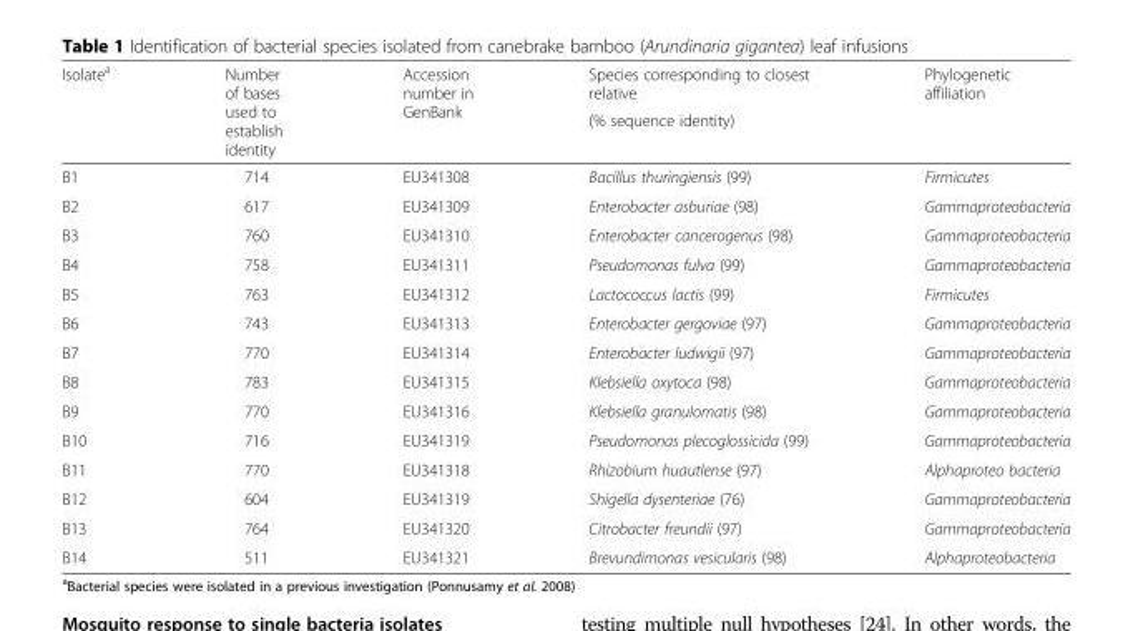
<table><thead><tr><td rowspan="2">Isolate<sup>a</sup></td><td rowspan="2">Number of bases used to establish identity</td><td rowspan="2">Accession number in GenBank</td><td rowspan="2">Species corresponding to closest relative (% sequence identity)</td><td rowspan="2">Phylogenetic affiliation</td></tr><tr></tr></thead><tbody><tr><td>B1</td><td>714</td><td>EU341308</td><td>Bacillus thuringiensis (99)</td><td>Firmicutes</td></tr><tr><td>B2</td><td>617</td><td>EU341309</td><td>Enterobacter asburiae (98)</td><td>Gammaproteobacteria</td></tr><tr><td>B3</td><td>760</td><td>EU341310</td><td>Enterobacter cancerogenus (98)</td><td>Gammaproteobacteria</td></tr><tr><td>B4</td><td>758</td><td>EU341311</td><td>Pseudomonas fulva (99)</td><td>Gammaproteobacteria</td></tr><tr><td>B5</td><td>763</td><td>EU341312</td><td>Lactococcus lactis (99)</td><td>Firmicutes</td></tr><tr><td>B6</td><td>743</td><td>EU341313</td><td>Enterobacter gergoviae (97)</td><td>Gammaproteobacteria</td></tr><tr><td>B7</td><td>770</td><td>EU341314</td><td>Enterobacter ludwigii (97)</td><td>Gammaproteobacteria</td></tr><tr><td>B8</td><td>783</td><td>EU341315</td><td>Klebsiella oxytoca (98)</td><td>Gammaproteobacteria</td></tr><tr><td>B9</td><td>770</td><td>EU341316</td><td>Klebsiella granulomatis (98)</td><td>Gammaproteobacteria</td></tr><tr><td>B10</td><td>716</td><td>EU341319</td><td>Pseudomonas plecoglossicida (99)</td><td>Gammaproteobacteria</td></tr><tr><td>B11</td><td>770</td><td>EU341318</td><td>Rhizobium huautlense (97)</td><td>Alphaproteo bacteria</td></tr><tr><td>B12</td><td>604</td><td>EU341319</td><td>Shigella dysenteriae (76)</td><td>Gammaproteobacteria</td></tr><tr><td>B13</td><td>764</td><td>EU341320</td><td>Citrobacter freundii (97)</td><td>Gammaproteobacteria</td></tr><tr><td>B14</td><td>511</td><td>EU341321</td><td>Brevundimonas vesicularis (98)</td><td>Alphaproteobacteria</td></tr></tbody></table>